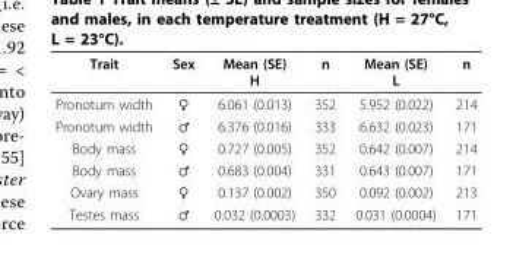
<table><thead><tr><td>Trait</td><td>Sex</td><td>Mean (SE) H</td><td>n</td><td>Mean (SE) L</td><td>n</td></tr></thead><tbody><tr><td>Pronotum width</td><td>♀</td><td>6.061 (0.013)</td><td>352</td><td>5.952 (0.022)</td><td>214</td></tr><tr><td>Pronotum width</td><td>♂</td><td>6.376 (0.016)</td><td>333</td><td>6.632 (0.023)</td><td>171</td></tr><tr><td>Body mass</td><td>♀</td><td>0.727 (0.005)</td><td>352</td><td>0.642 (0.007)</td><td>214</td></tr><tr><td>Body mass</td><td>♂</td><td>0.683 (0.004)</td><td>331</td><td>0.643 (0.007)</td><td>171</td></tr><tr><td>Ovary mass</td><td>♀</td><td>0.137 (0.002)</td><td>350</td><td>0.092 (0.002)</td><td>213</td></tr><tr><td>Testes mass</td><td>♂</td><td>0.032 (0.0003)</td><td>332</td><td>0.031 (0.0004)</td><td>171</td></tr></tbody></table>